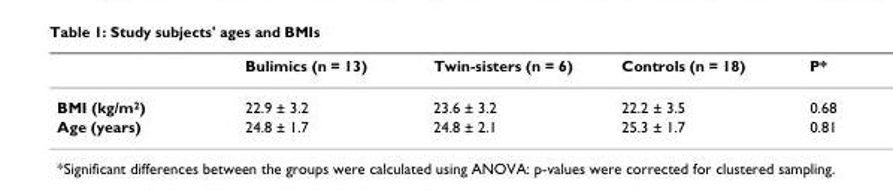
<table><thead><tr><td></td><td>Bulimics (n = 13)</td><td>Twin-sisters (n = 6)</td><td>Controls (n = 18)</td><td>P*</td></tr></thead><tbody><tr><td>BMI (kg/m<sup>2</sup>)</td><td>22.9 ± 3.2</td><td>23.6 ± 3.2</td><td>22.2 ± 3.5</td><td>0.68</td></tr><tr><td>Age (years)</td><td>24.8 ± 1.7</td><td>24.8 ± 2.1</td><td>25.3 ± 1.7</td><td>0.81</td></tr></tbody></table>